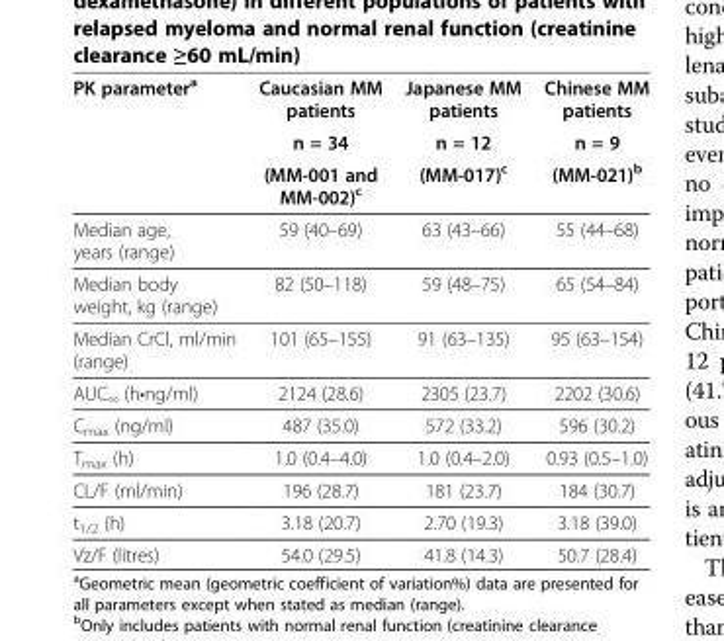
<table><thead><tr><td rowspan="3">PK parameter<sup>a</sup></td><td rowspan="3">Caucasian MM patients n = 34 (MM-001 and MM-002)<sup>c</sup></td><td rowspan="3">Japanese MM patients n = 12 (MM-017)<sup>c</sup></td><td rowspan="3">Chinese MM patients n = 9 (MM-021)<sup>b</sup></td></tr><tr></tr><tr></tr></thead><tbody><tr><td>Median age, years (range)</td><td>59 (40–69)</td><td>63 (43–66)</td><td>55 (44–68)</td></tr><tr><td>Median body weight, kg (range)</td><td>82 (50–118)</td><td>59 (48–75)</td><td>65 (54–84)</td></tr><tr><td>Median CrCl, ml/min (range)</td><td>101 (65–155)</td><td>91 (63–135)</td><td>95 (63–154)</td></tr><tr><td>AUC<sub>∞</sub> (h•ng/ml)</td><td>2124 (28.6)</td><td>2305 (23.7)</td><td>2202 (30.6)</td></tr><tr><td>C<sub>max</sub> (ng/ml)</td><td>487 (35.0)</td><td>572 (33.2)</td><td>596 (30.2)</td></tr><tr><td>T<sub>max</sub> (h)</td><td>1.0 (0.4–4.0)</td><td>1.0 (0.4–2.0)</td><td>0.93 (0.5–1.0)</td></tr><tr><td>CL/F (ml/min)</td><td>196 (28.7)</td><td>181 (23.7)</td><td>184 (30.7)</td></tr><tr><td>t<sub>1/2</sub> (h)</td><td>3.18 (20.7)</td><td>2.70 (19.3)</td><td>3.18 (39.0)</td></tr><tr><td>Vz/F (litres)</td><td>54.0 (29.5)</td><td>41.8 (14.3)</td><td>50.7 (28.4)</td></tr></tbody></table>